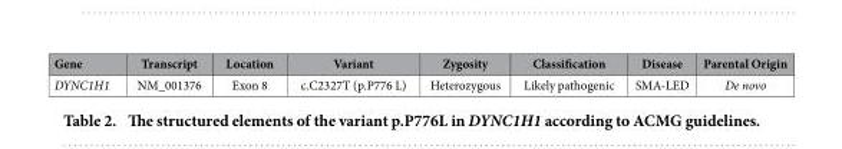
<table><thead><tr><td>Gene</td><td>Transcript</td><td>Location</td><td>Variant</td><td>Zygosity</td><td>Classification</td><td>Disease</td><td>Parental Origin</td></tr></thead><tbody><tr><td>DYNC1H1</td><td>NM_001376</td><td>Exon 8</td><td>c.C2327T (p.P776 L)</td><td>Heterozygous</td><td>Likely pathogenic</td><td>SMA-LED</td><td>De novo</td></tr></tbody></table>